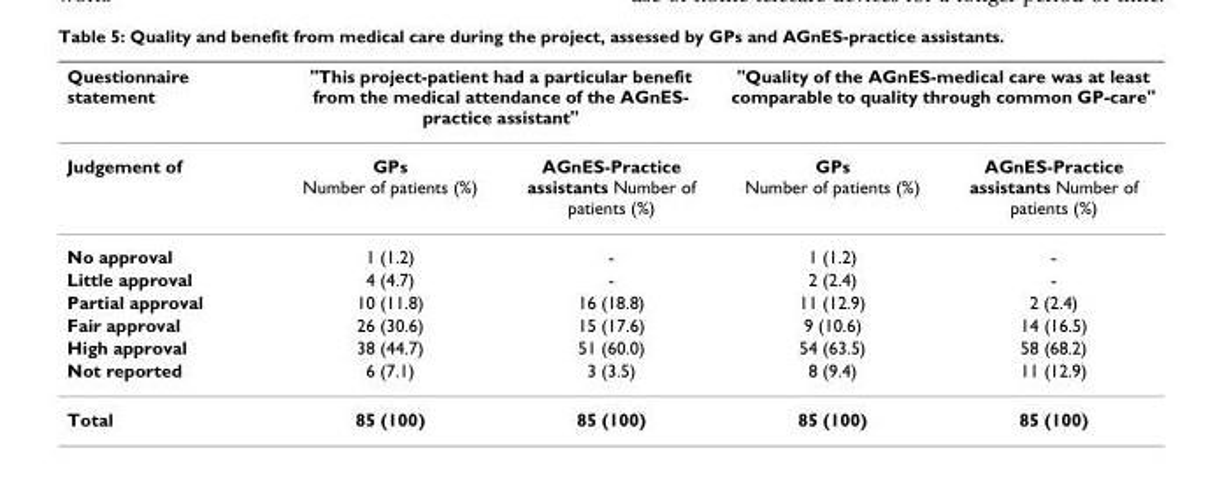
<table><thead><tr><td rowspan="2">Questionnaire statement Judgement of</td><td colspan="2">&quot;This project-patient had a particular benefit from the medical attendance of the AGnES- practice assistant&quot;</td><td colspan="2">&quot;Quality of the AGnES-medical care was at least comparable to quality through common GP-care&quot;</td></tr><tr><td>GPs Number of patients (%)</td><td>AGnES-Practice assistants Number of patients (%)</td><td>GPs Number of patients (%)</td><td>AGnES-Practice assistants Number of patients (%)</td></tr></thead><tbody><tr><td>No approval</td><td>1 (1.2)</td><td>-</td><td>1 (1.2)</td><td>-</td></tr><tr><td>Little approval</td><td>4 (4.7)</td><td>-</td><td>2 (2.4)</td><td>-</td></tr><tr><td>Partial approval</td><td>10 (11.8)</td><td>16 (18.8)</td><td>11 (12.9)</td><td>2 (2.4)</td></tr><tr><td>Fair approval</td><td>26 (30.6)</td><td>15 (17.6)</td><td>9 (10.6)</td><td>14 (16.5)</td></tr><tr><td>High approval</td><td>38 (44.7)</td><td>51 (60.0)</td><td>54 (63.5)</td><td>58 (68.2)</td></tr><tr><td>Not reported</td><td>6 (7.1)</td><td>3 (3.5)</td><td>8 (9.4)</td><td>11 (12.9)</td></tr><tr><td>Total</td><td>85 (100)</td><td>85 (100)</td><td>85 (100)</td><td>85 (100)</td></tr></tbody></table>